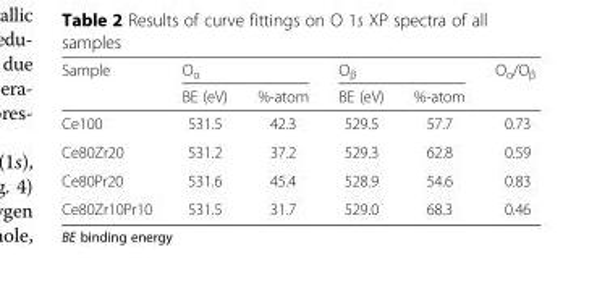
<table><thead><tr><td rowspan="2">Sample</td><td colspan="2">O<sub>α</sub></td><td colspan="2">O<sub>β</sub></td><td rowspan="2">O<sub>α</sub>/O<sub>β</sub></td></tr><tr><td>BE (eV)</td><td>%-atom</td><td>BE (eV)</td><td>%-atom</td></tr></thead><tbody><tr><td>Ce100</td><td>531.5</td><td>42.3</td><td>529.5</td><td>57.7</td><td>0.73</td></tr><tr><td>Ce80Zr20</td><td>531.2</td><td>37.2</td><td>529.3</td><td>62.8</td><td>0.59</td></tr><tr><td>Ce80Pr20</td><td>531.6</td><td>45.4</td><td>528.9</td><td>54.6</td><td>0.83</td></tr><tr><td>Ce80Zr10Pr10</td><td>531.5</td><td>31.7</td><td>529.0</td><td>68.3</td><td>0.46</td></tr></tbody></table>